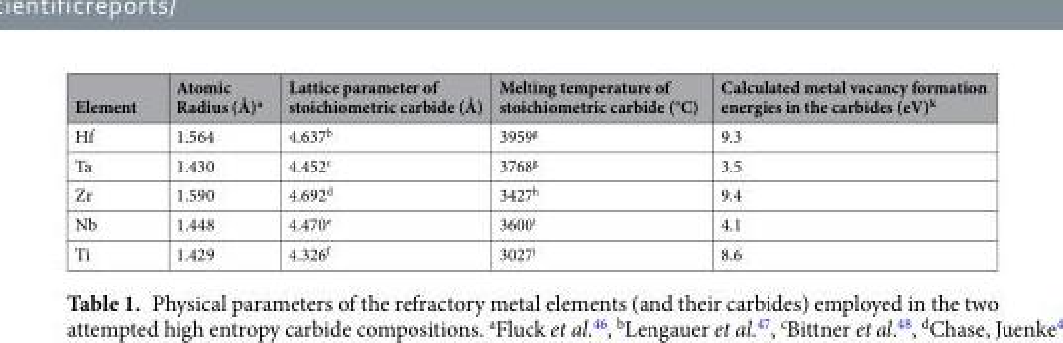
<table><thead><tr><td>Element</td><td>Atomic Radius (Å)<sup>a</sup></td><td>Lattice parameter of stoichiometric carbide (Å)</td><td>Melting temperature of stoichiometric carbide (°C)</td><td>Calculated metal vacancy formation energies in the carbides (eV)<sup>k</sup></td></tr></thead><tbody><tr><td>Hf</td><td>1.564</td><td>4.637<sup>b</sup></td><td>3959<sup>g</sup></td><td>9.3</td></tr><tr><td>Ta</td><td>1.430</td><td>4.452<sup>c</sup></td><td>3768<sup>g</sup></td><td>3.5</td></tr><tr><td>Zr</td><td>1.590</td><td>4.692<sup>d</sup></td><td>3427<sup>h</sup></td><td>9.4</td></tr><tr><td>Nb</td><td>1.448</td><td>4.470<sup>e</sup></td><td>3600<sup>i</sup></td><td>4.1</td></tr><tr><td>Ti</td><td>1.429</td><td>4.326<sup>f</sup></td><td>3027<sup>j</sup></td><td>8.6</td></tr></tbody></table>